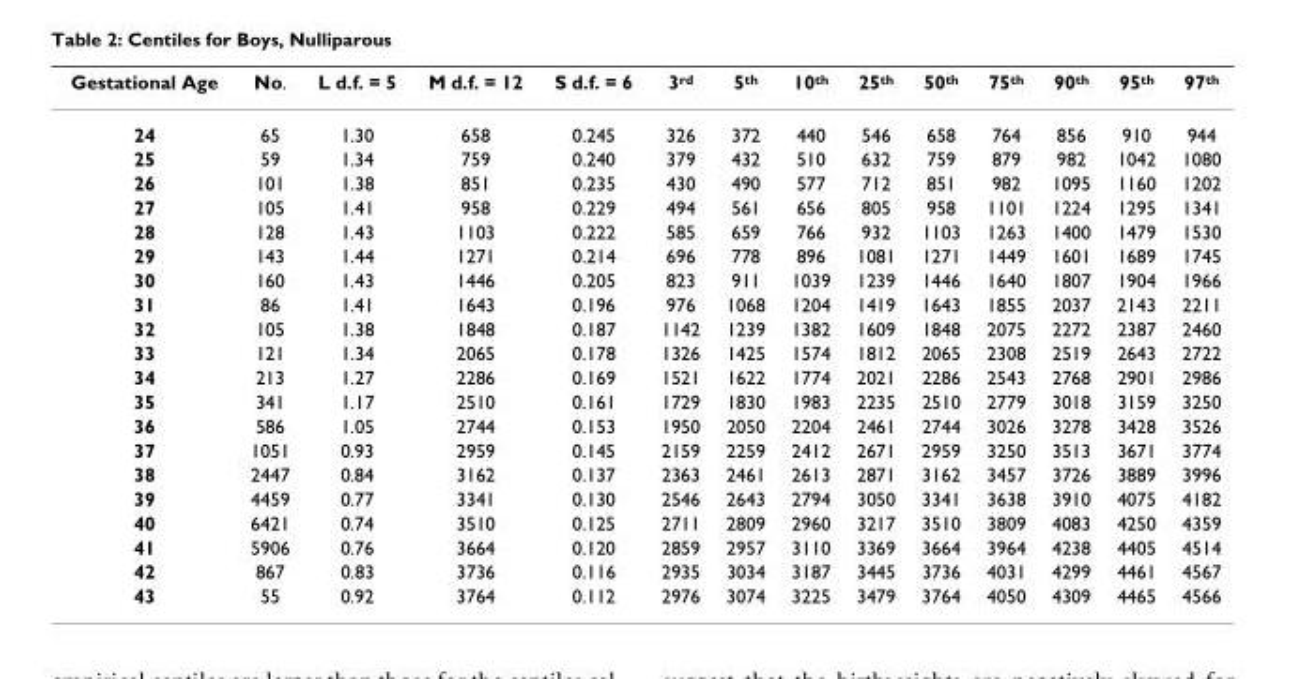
<table><thead><tr><td>Gestational Age</td><td>No.</td><td>L d.f. = 5</td><td>M d.f. = 12</td><td>S d.f. = 6</td><td>3<sup>rd</sup></td><td>5<sup>th</sup></td><td>10<sup>th</sup></td><td>25<sup>th</sup></td><td>50<sup>th</sup></td><td>75<sup>th</sup></td><td>90<sup>th</sup></td><td>95<sup>th</sup></td><td>97<sup>th</sup></td></tr></thead><tbody><tr><td>24</td><td>65</td><td>1.30</td><td>658</td><td>0.245</td><td>326</td><td>372</td><td>440</td><td>546</td><td>658</td><td>764</td><td>856</td><td>910</td><td>944</td></tr><tr><td>25</td><td>59</td><td>1.34</td><td>759</td><td>0.240</td><td>379</td><td>432</td><td>510</td><td>632</td><td>759</td><td>879</td><td>982</td><td>1042</td><td>1080</td></tr><tr><td>26</td><td>101</td><td>1.38</td><td>851</td><td>0.235</td><td>430</td><td>490</td><td>577</td><td>712</td><td>851</td><td>982</td><td>1095</td><td>1160</td><td>1202</td></tr><tr><td>27</td><td>105</td><td>1.41</td><td>958</td><td>0.229</td><td>494</td><td>561</td><td>656</td><td>805</td><td>958</td><td>1101</td><td>1224</td><td>1295</td><td>1341</td></tr><tr><td>28</td><td>128</td><td>1.43</td><td>1103</td><td>0.222</td><td>585</td><td>659</td><td>766</td><td>932</td><td>1103</td><td>1263</td><td>1400</td><td>1479</td><td>1530</td></tr><tr><td>29</td><td>143</td><td>1.44</td><td>1271</td><td>0.214</td><td>696</td><td>778</td><td>896</td><td>1081</td><td>1271</td><td>1449</td><td>1601</td><td>1689</td><td>1745</td></tr><tr><td>30</td><td>160</td><td>1.43</td><td>1446</td><td>0.205</td><td>823</td><td>911</td><td>1039</td><td>1239</td><td>1446</td><td>1640</td><td>1807</td><td>1904</td><td>1966</td></tr><tr><td>31</td><td>86</td><td>1.41</td><td>1643</td><td>0.196</td><td>976</td><td>1068</td><td>1204</td><td>1419</td><td>1643</td><td>1855</td><td>2037</td><td>2143</td><td>2211</td></tr><tr><td>32</td><td>105</td><td>1.38</td><td>1848</td><td>0.187</td><td>1142</td><td>1239</td><td>1382</td><td>1609</td><td>1848</td><td>2075</td><td>2272</td><td>2387</td><td>2460</td></tr><tr><td>33</td><td>121</td><td>1.34</td><td>2065</td><td>0.178</td><td>1326</td><td>1425</td><td>1574</td><td>1812</td><td>2065</td><td>2308</td><td>2519</td><td>2643</td><td>2722</td></tr><tr><td>34</td><td>213</td><td>1.27</td><td>2286</td><td>0.169</td><td>1521</td><td>1622</td><td>1774</td><td>2021</td><td>2286</td><td>2543</td><td>2768</td><td>2901</td><td>2986</td></tr><tr><td>35</td><td>341</td><td>1.17</td><td>2510</td><td>0.161</td><td>1729</td><td>1830</td><td>1983</td><td>2235</td><td>2510</td><td>2779</td><td>3018</td><td>3159</td><td>3250</td></tr><tr><td>36</td><td>586</td><td>1.05</td><td>2744</td><td>0.153</td><td>1950</td><td>2050</td><td>2204</td><td>2461</td><td>2744</td><td>3026</td><td>3278</td><td>3428</td><td>3526</td></tr><tr><td>37</td><td>1051</td><td>0.93</td><td>2959</td><td>0.145</td><td>2159</td><td>2259</td><td>2412</td><td>2671</td><td>2959</td><td>3250</td><td>3513</td><td>3671</td><td>3774</td></tr><tr><td>38</td><td>2447</td><td>0.84</td><td>3162</td><td>0.137</td><td>2363</td><td>2461</td><td>2613</td><td>2871</td><td>3162</td><td>3457</td><td>3726</td><td>3889</td><td>3996</td></tr><tr><td>39</td><td>4459</td><td>0.77</td><td>3341</td><td>0.130</td><td>2546</td><td>2643</td><td>2794</td><td>3050</td><td>3341</td><td>3638</td><td>3910</td><td>4075</td><td>4182</td></tr><tr><td>40</td><td>6421</td><td>0.74</td><td>3510</td><td>0.125</td><td>2711</td><td>2809</td><td>2960</td><td>3217</td><td>3510</td><td>3809</td><td>4083</td><td>4250</td><td>4359</td></tr><tr><td>41</td><td>5906</td><td>0.76</td><td>3664</td><td>0.120</td><td>2859</td><td>2957</td><td>3110</td><td>3369</td><td>3664</td><td>3964</td><td>4238</td><td>4405</td><td>4514</td></tr><tr><td>42</td><td>867</td><td>0.83</td><td>3736</td><td>0.116</td><td>2935</td><td>3034</td><td>3187</td><td>3445</td><td>3736</td><td>4031</td><td>4299</td><td>4461</td><td>4567</td></tr><tr><td>43</td><td>55</td><td>0.92</td><td>3764</td><td>0.112</td><td>2976</td><td>3074</td><td>3225</td><td>3479</td><td>3764</td><td>4050</td><td>4309</td><td>4465</td><td>4566</td></tr></tbody></table>